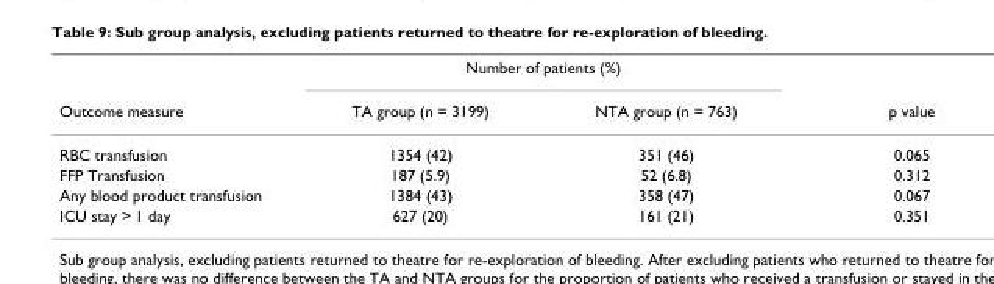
<table><thead><tr><td rowspan="2">Outcome measure</td><td colspan="2">Number of patients (%)</td><td rowspan="2">p value</td></tr><tr><td>TA group (n = 3199)</td><td>NTA group (n = 763)</td></tr></thead><tbody><tr><td>RBC transfusion</td><td>1354 (42)</td><td>351 (46)</td><td>0.065</td></tr><tr><td>FFP Transfusion</td><td>187 (5.9)</td><td>52 (6.8)</td><td>0.312</td></tr><tr><td>Any blood product transfusion</td><td>1384 (43)</td><td>358 (47)</td><td>0.067</td></tr><tr><td>ICU stay &gt; 1 day</td><td>627 (20)</td><td>161 (21)</td><td>0.351</td></tr></tbody></table>